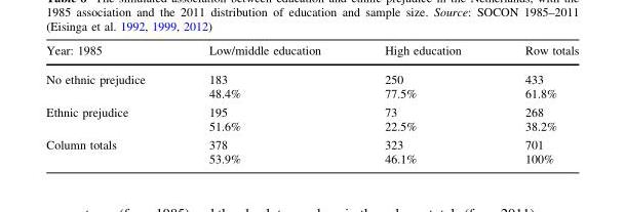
<table><thead><tr><td>Year: 1985</td><td>Low/middle education</td><td>High education</td><td>Row totals</td></tr></thead><tbody><tr><td>No ethnic prejudice</td><td>183 48.4%</td><td>250 77.5%</td><td>433 61.8%</td></tr><tr><td>Ethnic prejudice</td><td>195 51.6%</td><td>73 22.5%</td><td>268 38.2%</td></tr><tr><td>Column totals</td><td>378 53.9%</td><td>323 46.1%</td><td>701 100%</td></tr></tbody></table>